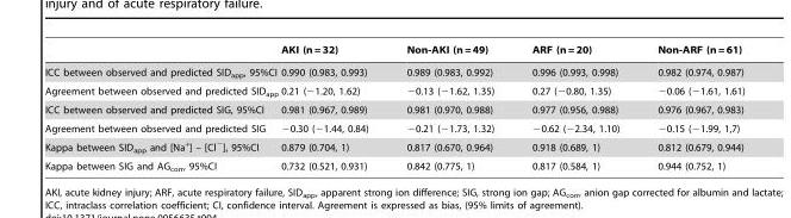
<table><thead><tr><td></td><td>AKI (n = 32)</td><td>Non-AKI (n = 49)</td><td>ARF (n = 20)</td><td>Non-ARF (n = 61)</td></tr></thead><tbody><tr><td>ICC between observed and predicted SID<sub>app</sub>, 95%CI</td><td>0.990 (0.983, 0.993)</td><td>0.989 (0.983, 0.992)</td><td>0.996 (0.993, 0.998)</td><td>0.982 (0.974, 0.987)</td></tr><tr><td>Agreement between observed and predicted SID<sub>app</sub></td><td>0.21 (−1.20, 1.62)</td><td>−0.13 (−1.62, 1.35)</td><td>0.27 (−0.80, 1.35)</td><td>−0.06 (−1.61, 1.61)</td></tr><tr><td>ICC between observed and predicted SIG, 95%CI</td><td>0.981 (0.967, 0.989)</td><td>0.981 (0.970, 0.988)</td><td>0.977 (0.956, 0.988)</td><td>0.976 (0.967, 0.983)</td></tr><tr><td>Agreement between observed and predicted SIG</td><td>−0.30 (−1.44, 0.84)</td><td>−0.21 (−1.73, 1.32)</td><td>−0.62 (−2.34, 1.10)</td><td>−0.15 (−1.99, 1,7)</td></tr><tr><td>Kappa between SID<sub>app</sub> and [Na<sup>+</sup>] – [Cl<sup>−</sup>], 95%CI</td><td>0.879 (0.704, 1)</td><td>0.817 (0.670, 0.964)</td><td>0.918 (0.689, 1)</td><td>0.812 (0.679, 0.944)</td></tr><tr><td>Kappa between SIG and AG<sub>corr</sub>, 95%CI</td><td>0.732 (0.521, 0.931)</td><td>0.842 (0.775, 1)</td><td>0.817 (0.584, 1)</td><td>0.944 (0.752, 1)</td></tr></tbody></table>